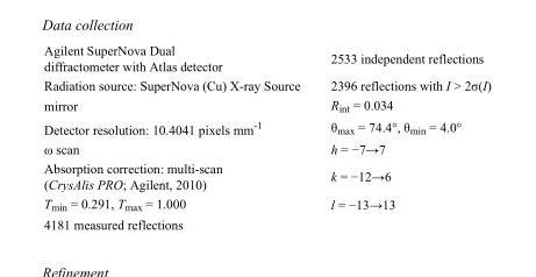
<table><tbody><tr><td>Agilent SuperNova Dual diffractometer with Atlas detector</td><td>2533 independent reflections</td></tr><tr><td>Radiation source: SuperNova (Cu) X-ray Source</td><td>2396 reflections with I &gt; 2σ(I)</td></tr><tr><td>mirror</td><td>R<sub>int</sub> = 0.034</td></tr><tr><td>Detector resolution: 10.4041 pixels mm<sup>-1</sup></td><td>θ<sub>max</sub> = 74.4°, θ<sub>min</sub> = 4.0°</td></tr><tr><td>ω scan</td><td>h = −7→7</td></tr><tr><td>Absorption correction: multi-scan (CrysAlis PRO; Agilent, 2010)</td><td>k = −12→6</td></tr><tr><td>T<sub>min</sub> = 0.291, T<sub>max</sub> = 1.000</td><td>l = −13→13</td></tr><tr><td>4181 measured reflections</td><td></td></tr></tbody></table>